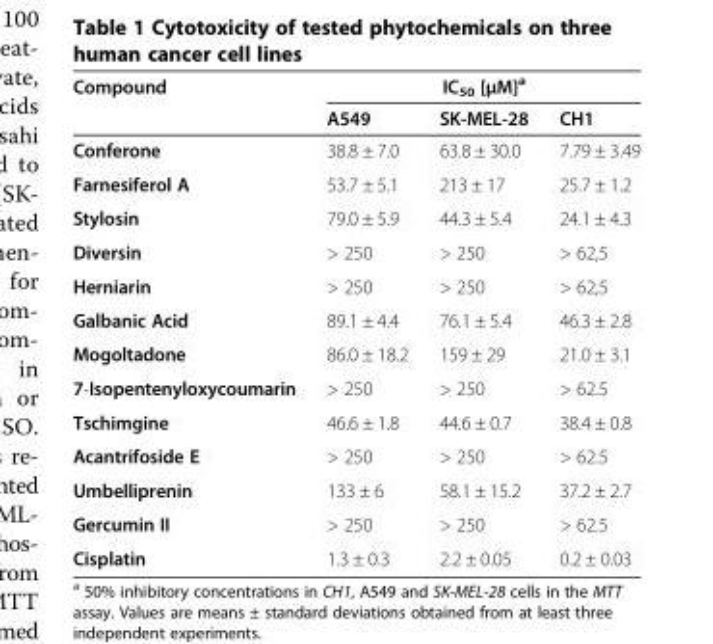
<table><thead><tr><td rowspan="2">Compound</td><td colspan="3">IC<sub>50</sub> [μM]<sup>a</sup></td></tr><tr><td>A549</td><td>SK-MEL-28</td><td>CH1</td></tr></thead><tbody><tr><td>Conferone</td><td>38.8 ± 7.0</td><td>63.8 ± 30.0</td><td>7.79 ± 3.49</td></tr><tr><td>Farnesiferol A</td><td>53.7 ± 5.1</td><td>213 ± 17</td><td>25.7 ± 1.2</td></tr><tr><td>Stylosin</td><td>79.0 ± 5.9</td><td>44.3 ± 5.4</td><td>24.1 ± 4.3</td></tr><tr><td>Diversin</td><td>&gt; 250</td><td>&gt; 250</td><td>&gt; 62,5</td></tr><tr><td>Herniarin</td><td>&gt; 250</td><td>&gt; 250</td><td>&gt; 62,5</td></tr><tr><td>Galbanic Acid</td><td>89.1 ± 4.4</td><td>76.1 ± 5.4</td><td>46.3 ± 2.8</td></tr><tr><td>Mogoltadone</td><td>86.0 ± 18.2</td><td>159 ± 29</td><td>21.0 ± 3.1</td></tr><tr><td>7-Isopentenyloxycoumarin</td><td>&gt; 250</td><td>&gt; 250</td><td>&gt; 62.5</td></tr><tr><td>Tschimgine</td><td>46.6 ± 1.8</td><td>44.6 ± 0.7</td><td>38.4 ± 0.8</td></tr><tr><td>Acantrifoside E</td><td>&gt; 250</td><td>&gt; 250</td><td>&gt; 62.5</td></tr><tr><td>Umbelliprenin</td><td>133 ± 6</td><td>58.1 ± 15.2</td><td>37.2 ± 2.7</td></tr><tr><td>Gercumin II</td><td>&gt; 250</td><td>&gt; 250</td><td>&gt; 62.5</td></tr><tr><td>Cisplatin</td><td>1.3 ± 0.3</td><td>2.2 ± 0.05</td><td>0.2 ± 0.03</td></tr></tbody></table>